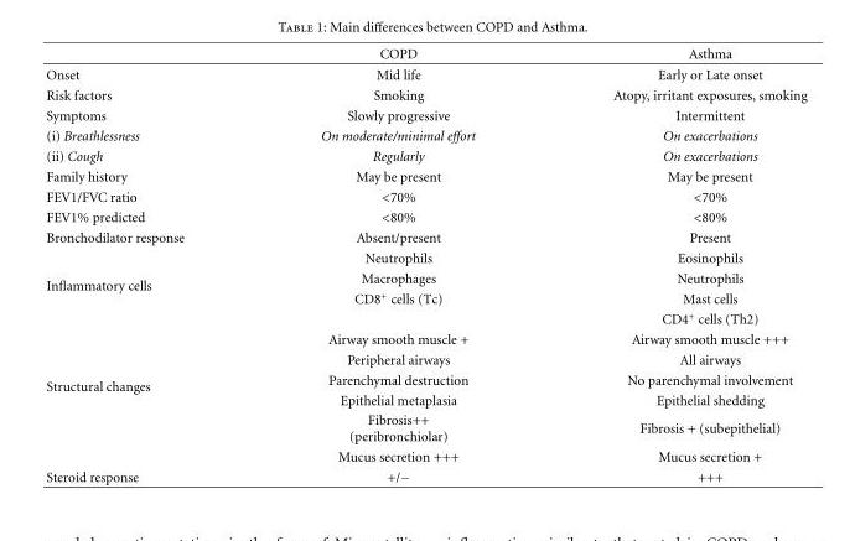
<table><thead><tr><td></td><td>COPD</td><td>Asthma</td></tr></thead><tbody><tr><td>Onset</td><td>Mid life</td><td>Early or Late onset</td></tr><tr><td>Risk factors</td><td>Smoking</td><td>Atopy, irritant exposures, smoking</td></tr><tr><td>Symptoms</td><td>Slowly progressive</td><td>Intermittent</td></tr><tr><td>(i) Breathlessness</td><td>On moderate/minimal effort</td><td>On exacerbations</td></tr><tr><td>(ii) Cough</td><td>Regularly</td><td>On exacerbations</td></tr><tr><td>Family history</td><td>May be present</td><td>May be present</td></tr><tr><td>FEV1/FVC ratio</td><td>&lt;70%</td><td>&lt;70%</td></tr><tr><td>FEV1% predicted</td><td>&lt;80%</td><td>&lt;80%</td></tr><tr><td>Bronchodilator response</td><td>Absent/present</td><td>Present</td></tr><tr><td rowspan="4">Inflammatory cells</td><td>Neutrophils</td><td>Eosinophils</td></tr><tr><td>Macrophages</td><td>Neutrophils</td></tr><tr><td>CD8<sup>+</sup> cells (Tc)</td><td>Mast cells</td></tr><tr><td></td><td>CD4<sup>+</sup> cells (Th2)</td></tr><tr><td rowspan="6">Structural changes</td><td>Airway smooth muscle +</td><td>Airway smooth muscle +++</td></tr><tr><td>Peripheral airways</td><td>All airways</td></tr><tr><td>Parenchymal destruction</td><td>No parenchymal involvement</td></tr><tr><td>Epithelial metaplasia</td><td>Epithelial shedding</td></tr><tr><td>Fibrosis++ (peribronchiolar)</td><td>Fibrosis + (subepithelial)</td></tr><tr><td>Mucus secretion +++</td><td>Mucus secretion +</td></tr><tr><td>Steroid response</td><td>+/−</td><td>+++</td></tr></tbody></table>